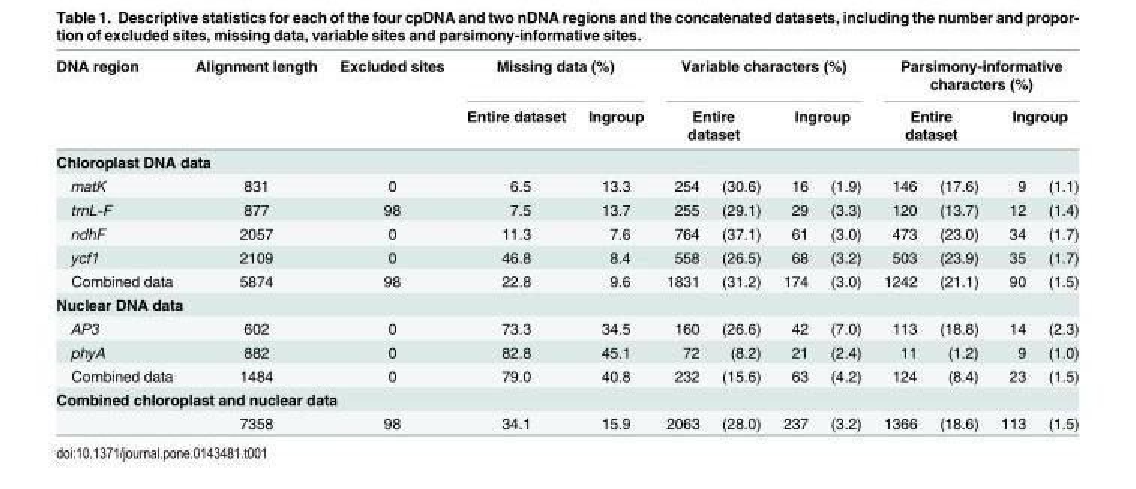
<table><thead><tr><td rowspan="2">DNA region</td><td rowspan="2">Alignment length</td><td rowspan="2">Excluded sites</td><td colspan="2">Missing data (%)</td><td colspan="4">Variable characters (%)</td><td colspan="4">Parsimony-informative characters (%)</td></tr><tr><td>Entire dataset</td><td>Ingroup</td><td colspan="2">Entire dataset</td><td colspan="2">Ingroup</td><td colspan="2">Entire dataset</td><td colspan="2">Ingroup</td></tr><tr><td colspan="13">Chloroplast DNA data</td></tr><tr><td>matK</td><td>831</td><td>0</td><td>6.5</td><td>13.3</td><td>254</td><td>(30.6)</td><td>16</td><td>(1.9)</td><td>146</td><td>(17.6)</td><td>9</td><td>(1.1)</td></tr></thead><tbody><tr><td>trnL-F</td><td>877</td><td>98</td><td>7.5</td><td>13.7</td><td>255</td><td>(29.1)</td><td>29</td><td>(3.3)</td><td>120</td><td>(13.7)</td><td>12</td><td>(1.4)</td></tr><tr><td>ndhF</td><td>2057</td><td>0</td><td>11.3</td><td>7.6</td><td>764</td><td>(37.1)</td><td>61</td><td>(3.0)</td><td>473</td><td>(23.0)</td><td>34</td><td>(1.7)</td></tr><tr><td>ycf1</td><td>2109</td><td>0</td><td>46.8</td><td>8.4</td><td>558</td><td>(26.5)</td><td>68</td><td>(3.2)</td><td>503</td><td>(23.9)</td><td>35</td><td>(1.7)</td></tr><tr><td>Combined data</td><td>5874</td><td>98</td><td>22.8</td><td>9.6</td><td>1831</td><td>(31.2)</td><td>174</td><td>(3.0)</td><td>1242</td><td>(21.1)</td><td>90</td><td>(1.5)</td></tr><tr><td colspan="13">Nuclear DNA data</td></tr><tr><td>AP3</td><td>602</td><td>0</td><td>73.3</td><td>34.5</td><td>160</td><td>(26.6)</td><td>42</td><td>(7.0)</td><td>113</td><td>(18.8)</td><td>14</td><td>(2.3)</td></tr><tr><td>phyA</td><td>882</td><td>0</td><td>82.8</td><td>45.1</td><td>72</td><td>(8.2)</td><td>21</td><td>(2.4)</td><td>11</td><td>(1.2)</td><td>9</td><td>(1.0)</td></tr><tr><td>Combined data</td><td>1484</td><td>0</td><td>79.0</td><td>40.8</td><td>232</td><td>(15.6)</td><td>63</td><td>(4.2)</td><td>124</td><td>(8.4)</td><td>23</td><td>(1.5)</td></tr><tr><td colspan="13">Combined chloroplast and nuclear data</td></tr><tr><td></td><td>7358</td><td>98</td><td>34.1</td><td>15.9</td><td>2063</td><td>(28.0)</td><td>237</td><td>(3.2)</td><td>1366</td><td>(18.6)</td><td>113</td><td>(1.5)</td></tr></tbody></table>